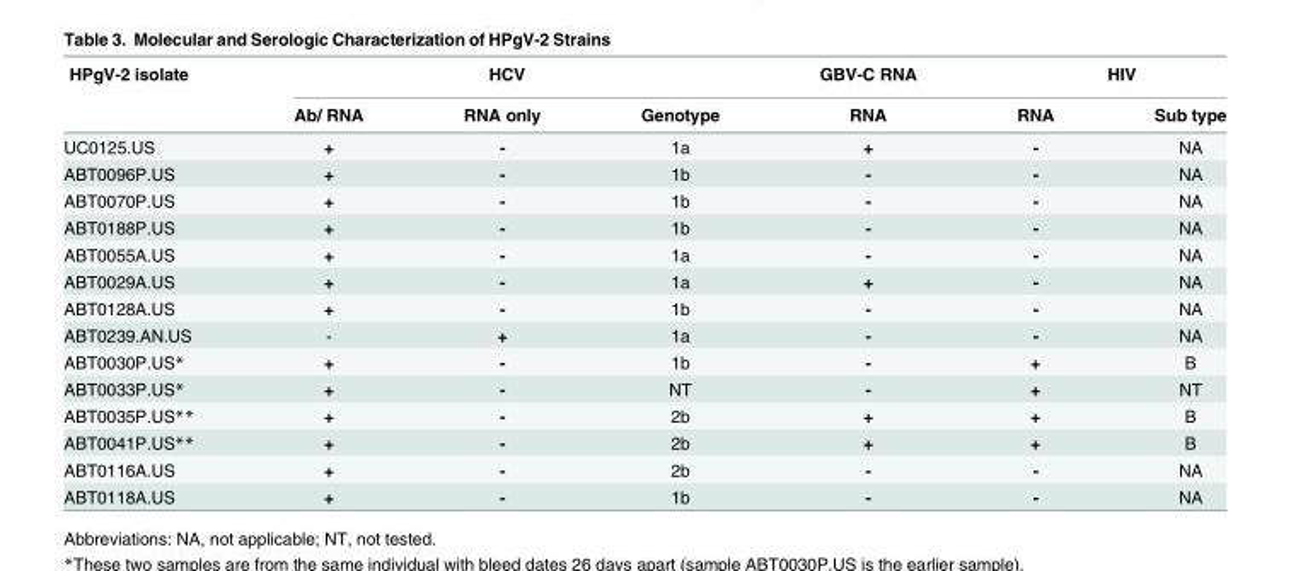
<table><thead><tr><td rowspan="2">HPgV-2 isolate</td><td colspan="3">HCV</td><td rowspan="2">GBV-C RNA RNA</td><td colspan="2">HIV</td></tr><tr><td>Ab/ RNA</td><td>RNA only</td><td>Genotype</td><td>RNA</td><td>Sub type</td></tr></thead><tbody><tr><td>UC0125.US</td><td>+</td><td>-</td><td>1a</td><td>+</td><td>-</td><td>NA</td></tr><tr><td>ABT0096P.US</td><td>+</td><td>-</td><td>1b</td><td>-</td><td>-</td><td>NA</td></tr><tr><td>ABT0070P.US</td><td>+</td><td>-</td><td>1b</td><td>-</td><td>-</td><td>NA</td></tr><tr><td>ABT0188P.US</td><td>+</td><td>-</td><td>1b</td><td>-</td><td>-</td><td>NA</td></tr><tr><td>ABT0055A.US</td><td>+</td><td>-</td><td>1a</td><td>-</td><td>-</td><td>NA</td></tr><tr><td>ABT0029A.US</td><td>+</td><td>-</td><td>1a</td><td>+</td><td>-</td><td>NA</td></tr><tr><td>ABT0128A.US</td><td>+</td><td>-</td><td>1b</td><td>-</td><td>-</td><td>NA</td></tr><tr><td>ABT0239.AN.US</td><td>-</td><td>+</td><td>1a</td><td>-</td><td>-</td><td>NA</td></tr><tr><td>ABT0030P.US*</td><td>+</td><td>-</td><td>1b</td><td>-</td><td>+</td><td>B</td></tr><tr><td>ABT0033P.US*</td><td>+</td><td>-</td><td>NT</td><td>-</td><td>+</td><td>NT</td></tr><tr><td>ABT0035P.US**</td><td>+</td><td>-</td><td>2b</td><td>+</td><td>+</td><td>B</td></tr><tr><td>ABT0041P.US**</td><td>+</td><td>-</td><td>2b</td><td>+</td><td>+</td><td>B</td></tr><tr><td>ABT0116A.US</td><td>+</td><td>-</td><td>2b</td><td>-</td><td>-</td><td>NA</td></tr><tr><td>ABT0118A.US</td><td>+</td><td>-</td><td>1b</td><td>-</td><td>-</td><td>NA</td></tr></tbody></table>